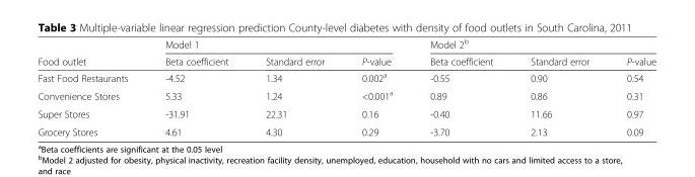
<table><thead><tr><td rowspan="2">Food outlet</td><td colspan="3">Model 1</td><td colspan="3">Model 2<sup>b</sup></td></tr><tr><td>Beta coefficient</td><td>Standard error</td><td>P-value</td><td>Beta coefficient</td><td>Standard error</td><td>P-value</td></tr></thead><tbody><tr><td>Fast Food Restaurants</td><td>-4.52</td><td>1.34</td><td>0.002<sup>a</sup></td><td>-0.55</td><td>0.90</td><td>0.54</td></tr><tr><td>Convenience Stores</td><td>5.33</td><td>1.24</td><td>&lt;0.001<sup>a</sup></td><td>0.89</td><td>0.86</td><td>0.31</td></tr><tr><td>Super Stores</td><td>-31.91</td><td>22.31</td><td>0.16</td><td>-0.40</td><td>11.66</td><td>0.97</td></tr><tr><td>Grocery Stores</td><td>4.61</td><td>4.30</td><td>0.29</td><td>-3.70</td><td>2.13</td><td>0.09</td></tr></tbody></table>